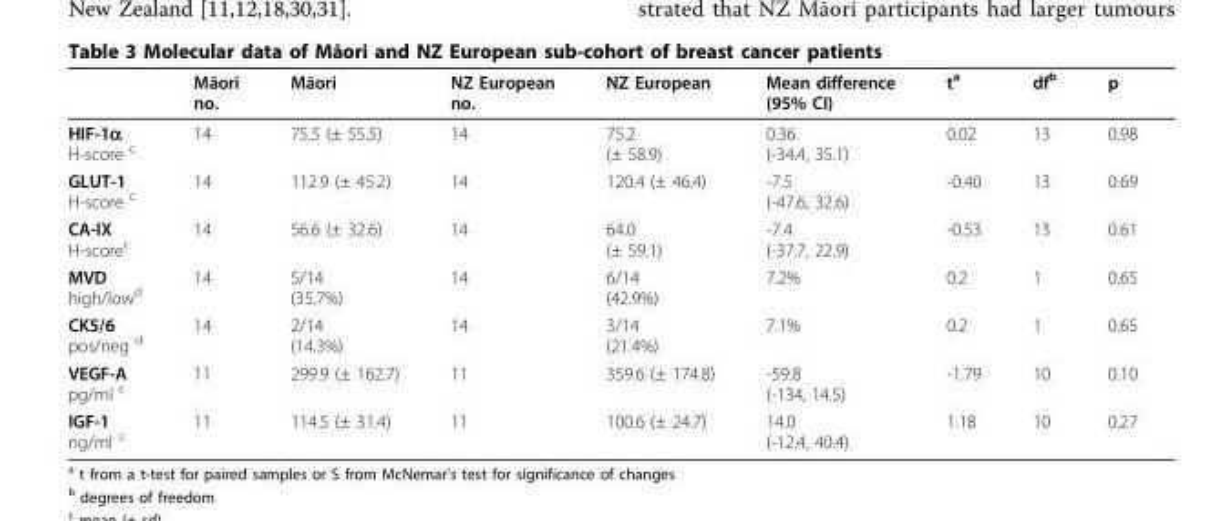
<table><thead><tr><td></td><td>Māori no.</td><td>Māori</td><td>NZ European no.</td><td>NZ European</td><td>Mean difference (95% CI)</td><td>t<sup>a</sup></td><td>df<sup>b</sup></td><td>p</td></tr></thead><tbody><tr><td>HIF-1α H-score <sup>c</sup></td><td>14</td><td>75.5 (± 55.5)</td><td>14</td><td>75.2 (± 58.9)</td><td>0.36 (-34.4, 35.1)</td><td>0.02</td><td>13</td><td>0.98</td></tr><tr><td>GLUT-1 H-score <sup>c</sup></td><td>14</td><td>112.9 (± 45.2)</td><td>14</td><td>120.4 (± 46.4)</td><td>-7.5 (-47.6, 32.6)</td><td>-0.40</td><td>13</td><td>0.69</td></tr><tr><td>CA-IX H-score<sup>c</sup></td><td>14</td><td>56.6 (± 32.6)</td><td>14</td><td>64.0 (± 59.1)</td><td>-7.4 (-37.7, 22.9)</td><td>-0.53</td><td>13</td><td>0.61</td></tr><tr><td>MVD high/low<sup>d</sup></td><td>14</td><td>5/14 (35.7%)</td><td>14</td><td>6/14 (42.9%)</td><td>7.2%</td><td>0.2</td><td>1</td><td>0.65</td></tr><tr><td>CK5/6 pos/neg <sup>d</sup></td><td>14</td><td>2/14 (14.3%)</td><td>14</td><td>3/14 (21.4%)</td><td>7.1%</td><td>0.2</td><td>1</td><td>0.65</td></tr><tr><td>VEGF-A pg/ml <sup>c</sup></td><td>11</td><td>299.9 (± 162.7)</td><td>11</td><td>359.6 (± 174.8)</td><td>-59.8 (-134, 14.5)</td><td>-1.79</td><td>10</td><td>0.10</td></tr><tr><td>IGF-1 ng/ml <sup>c</sup></td><td>11</td><td>114.5 (± 31.4)</td><td>11</td><td>100.6 (± 24.7)</td><td>14.0 (-12.4, 40.4)</td><td>1.18</td><td>10</td><td>0.27</td></tr></tbody></table>